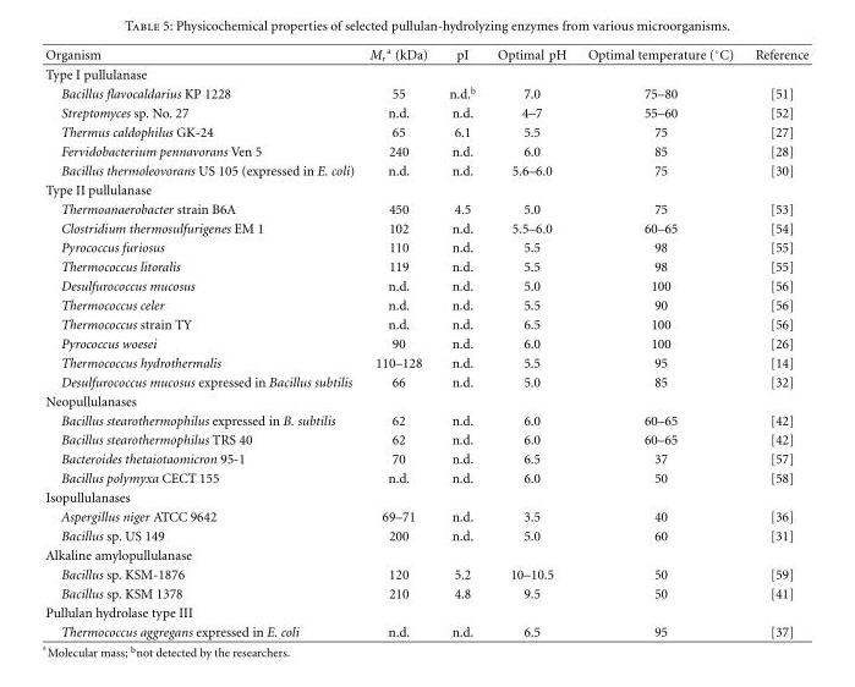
<table><thead><tr><td>Organism</td><td>M<sub>r</sub> <sup>a</sup> (kDa)</td><td>pI</td><td>Optimal pH</td><td>Optimal temperature (◦C)</td><td>Reference</td></tr></thead><tbody><tr><td colspan="6">Type I pullulanase</td></tr><tr><td>Bacillus flavocaldarius KP 1228</td><td>55</td><td>n.d.<sup>b</sup></td><td>7.0</td><td>75–80</td><td>[51]</td></tr><tr><td>Streptomyces sp. No. 27</td><td>n.d.</td><td>n.d.</td><td>4–7</td><td>55–60</td><td>[52]</td></tr><tr><td>Thermus caldophilus GK-24</td><td>65</td><td>6.1</td><td>5.5</td><td>75</td><td>[27]</td></tr><tr><td>Fervidobacterium pennavorans Ven 5</td><td>240</td><td>n.d.</td><td>6.0</td><td>85</td><td>[28]</td></tr><tr><td>Bacillus thermoleovorans US 105 (expressed in E. coli)</td><td>n.d.</td><td>n.d.</td><td>5.6–6.0</td><td>75</td><td>[30]</td></tr><tr><td colspan="6">Type II pullulanase</td></tr><tr><td>Thermoanaerobacter strain B6A</td><td>450</td><td>4.5</td><td>5.0</td><td>75</td><td>[53]</td></tr><tr><td>Clostridium thermosulfurigenes EM 1</td><td>102</td><td>n.d.</td><td>5.5–6.0</td><td>60–65</td><td>[54]</td></tr><tr><td>Pyrococcus furiosus</td><td>110</td><td>n.d.</td><td>5.5</td><td>98</td><td>[55]</td></tr><tr><td>Thermococcus litoralis</td><td>119</td><td>n.d.</td><td>5.5</td><td>98</td><td>[55]</td></tr><tr><td>Desulfurococcus mucosus</td><td>n.d.</td><td>n.d.</td><td>5.0</td><td>100</td><td>[56]</td></tr><tr><td>Thermococcus celer</td><td>n.d.</td><td>n.d.</td><td>5.5</td><td>90</td><td>[56]</td></tr><tr><td>Thermococcus strain TY</td><td>n.d.</td><td>n.d.</td><td>6.5</td><td>100</td><td>[56]</td></tr><tr><td>Pyrococcus woesei</td><td>90</td><td>n.d.</td><td>6.0</td><td>100</td><td>[26]</td></tr><tr><td>Thermococcus hydrothermalis</td><td>110–128</td><td>n.d.</td><td>5.5</td><td>95</td><td>[14]</td></tr><tr><td>Desulfurococcus mucosus expressed in Bacillus subtilis</td><td>66</td><td>n.d.</td><td>5.0</td><td>85</td><td>[32]</td></tr><tr><td colspan="6">Neopullulanases</td></tr><tr><td>Bacillus stearothermophilus expressed in B. subtilis</td><td>62</td><td>n.d.</td><td>6.0</td><td>60–65</td><td>[42]</td></tr><tr><td>Bacillus stearothermophilus TRS 40</td><td>62</td><td>n.d.</td><td>6.0</td><td>60–65</td><td>[42]</td></tr><tr><td>Bacteroides thetaiotaomicron 95-1</td><td>70</td><td>n.d.</td><td>6.5</td><td>37</td><td>[57]</td></tr><tr><td>Bacillus polymyxa CECT 155</td><td>n.d.</td><td>n.d.</td><td>6.0</td><td>50</td><td>[58]</td></tr><tr><td colspan="6">Isopullulanases</td></tr><tr><td>Aspergillus niger ATCC 9642</td><td>69–71</td><td>n.d.</td><td>3.5</td><td>40</td><td>[36]</td></tr><tr><td>Bacillus sp. US 149</td><td>200</td><td>n.d.</td><td>5.0</td><td>60</td><td>[31]</td></tr><tr><td colspan="6">Alkaline amylopullulanase</td></tr><tr><td>Bacillus sp. KSM-1876</td><td>120</td><td>5.2</td><td>10–10.5</td><td>50</td><td>[59]</td></tr><tr><td>Bacillus sp. KSM 1378</td><td>210</td><td>4.8</td><td>9.5</td><td>50</td><td>[41]</td></tr><tr><td colspan="6">Pullulan hydrolase type III</td></tr><tr><td>Thermococcus aggregans expressed in E. coli</td><td>n.d.</td><td>n.d.</td><td>6.5</td><td>95</td><td>[37]</td></tr></tbody></table>